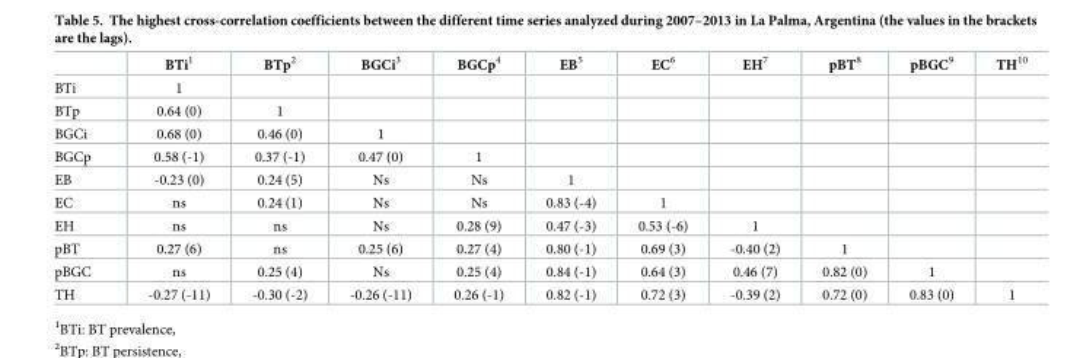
<table><thead><tr><td></td><td>BTi<sup>1</sup></td><td>BTp<sup>2</sup></td><td>BGCi<sup>3</sup></td><td>BGCp<sup>4</sup></td><td>EB<sup>5</sup></td><td>EC<sup>6</sup></td><td>EH<sup>7</sup></td><td>pBT<sup>8</sup></td><td>pBGC<sup>9</sup></td><td>TH<sup>10</sup></td></tr></thead><tbody><tr><td>BTi</td><td>1</td><td></td><td></td><td></td><td></td><td></td><td></td><td></td><td></td><td></td></tr><tr><td>BTp</td><td>0.64 (0)</td><td>1</td><td></td><td></td><td></td><td></td><td></td><td></td><td></td><td></td></tr><tr><td>BGCi</td><td>0.68 (0)</td><td>0.46 (0)</td><td>1</td><td></td><td></td><td></td><td></td><td></td><td></td><td></td></tr><tr><td>BGCp</td><td>0.58 (-1)</td><td>0.37 (-1)</td><td>0.47 (0)</td><td>1</td><td></td><td></td><td></td><td></td><td></td><td></td></tr><tr><td>EB</td><td>-0.23 (0)</td><td>0.24 (5)</td><td>Ns</td><td>Ns</td><td>1</td><td></td><td></td><td></td><td></td><td></td></tr><tr><td>EC</td><td>ns</td><td>0.24 (1)</td><td>Ns</td><td>Ns</td><td>0.83 (-4)</td><td>1</td><td></td><td></td><td></td><td></td></tr><tr><td>EH</td><td>ns</td><td>ns</td><td>Ns</td><td>0.28 (9)</td><td>0.47 (-3)</td><td>0.53 (-6)</td><td>1</td><td></td><td></td><td></td></tr><tr><td>pBT</td><td>0.27 (6)</td><td>ns</td><td>0.25 (6)</td><td>0.27 (4)</td><td>0.80 (-1)</td><td>0.69 (3)</td><td>-0.40 (2)</td><td>1</td><td></td><td></td></tr><tr><td>pBGC</td><td>ns</td><td>0.25 (4)</td><td>Ns</td><td>0.25 (4)</td><td>0.84 (-1)</td><td>0.64 (3)</td><td>0.46 (7)</td><td>0.82 (0)</td><td>1</td><td></td></tr><tr><td>TH</td><td>-0.27 (-11)</td><td>-0.30 (-2)</td><td>-0.26 (-11)</td><td>0.26 (-1)</td><td>0.82 (-1)</td><td>0.72 (3)</td><td>-0.39 (2)</td><td>0.72 (0)</td><td>0.83 (0)</td><td>1</td></tr></tbody></table>